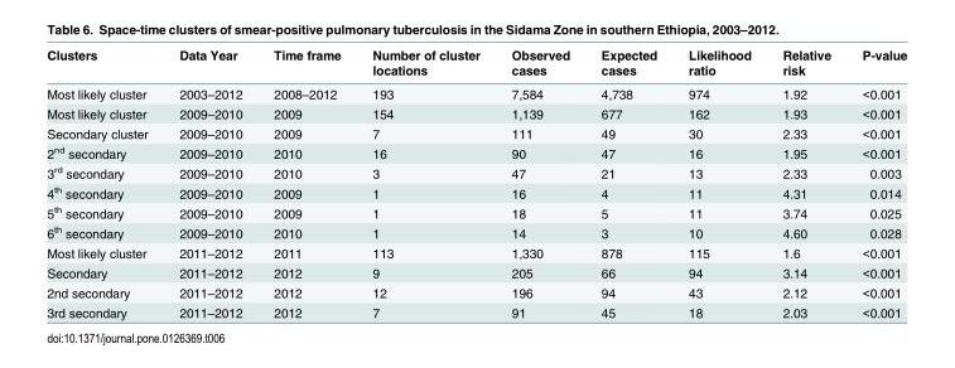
<table><thead><tr><td>Clusters</td><td>Data Year</td><td>Time frame</td><td>Number of cluster locations</td><td>Observed cases</td><td>Expected cases</td><td>Likelihood ratio</td><td>Relative risk</td><td>P-value</td></tr></thead><tbody><tr><td>Most likely cluster</td><td>2003–2012</td><td>2008–2012</td><td>193</td><td>7,584</td><td>4,738</td><td>974</td><td>1.92</td><td>&lt;0.001</td></tr><tr><td>Most likely cluster</td><td>2009–2010</td><td>2009</td><td>154</td><td>1,139</td><td>677</td><td>162</td><td>1.93</td><td>&lt;0.001</td></tr><tr><td>Secondary cluster</td><td>2009–2010</td><td>2009</td><td>7</td><td>111</td><td>49</td><td>30</td><td>2.33</td><td>&lt;0.001</td></tr><tr><td>2<sup>nd</sup> secondary</td><td>2009–2010</td><td>2010</td><td>16</td><td>90</td><td>47</td><td>16</td><td>1.95</td><td>&lt;0.001</td></tr><tr><td>3<sup>rd</sup> secondary</td><td>2009–2010</td><td>2010</td><td>3</td><td>47</td><td>21</td><td>13</td><td>2.33</td><td>0.003</td></tr><tr><td>4<sup>th</sup> secondary</td><td>2009–2010</td><td>2009</td><td>1</td><td>16</td><td>4</td><td>11</td><td>4.31</td><td>0.014</td></tr><tr><td>5<sup>th</sup> secondary</td><td>2009–2010</td><td>2009</td><td>1</td><td>18</td><td>5</td><td>11</td><td>3.74</td><td>0.025</td></tr><tr><td>6<sup>th</sup> secondary</td><td>2009–2010</td><td>2010</td><td>1</td><td>14</td><td>3</td><td>10</td><td>4.60</td><td>0.028</td></tr><tr><td>Most likely cluster</td><td>2011–2012</td><td>2011</td><td>113</td><td>1,330</td><td>878</td><td>115</td><td>1.6</td><td>&lt;0.001</td></tr><tr><td>Secondary</td><td>2011–2012</td><td>2012</td><td>9</td><td>205</td><td>66</td><td>94</td><td>3.14</td><td>&lt;0.001</td></tr><tr><td>2nd secondary</td><td>2011–2012</td><td>2012</td><td>12</td><td>196</td><td>94</td><td>43</td><td>2.12</td><td>&lt;0.001</td></tr><tr><td>3rd secondary</td><td>2011–2012</td><td>2012</td><td>7</td><td>91</td><td>45</td><td>18</td><td>2.03</td><td>&lt;0.001</td></tr></tbody></table>